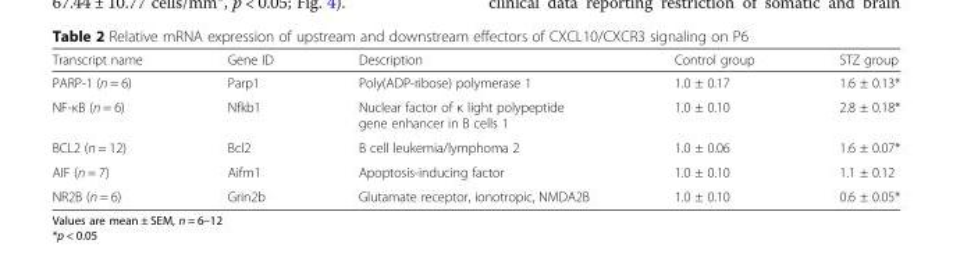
<table><thead><tr><td>Transcript name</td><td>Gene ID</td><td>Description</td><td>Control group</td><td>STZ group</td></tr></thead><tbody><tr><td>PARP-1 (n = 6)</td><td>Parp1</td><td>Poly(ADP-ribose) polymerase 1</td><td>1.0 ± 0.17</td><td>1.6 ± 0.13*</td></tr><tr><td>NF-κB (n = 6)</td><td>Nfkb1</td><td>Nuclear factor of κ light polypeptide gene enhancer in B cells 1</td><td>1.0 ± 0.10</td><td>2.8 ± 0.18*</td></tr><tr><td>BCL2 (n = 12)</td><td>Bcl2</td><td>B cell leukemia/lymphoma 2</td><td>1.0 ± 0.06</td><td>1.6 ± 0.07*</td></tr><tr><td>AIF (n = 7)</td><td>Aifm1</td><td>Apoptosis-inducing factor</td><td>1.0 ± 0.10</td><td>1.1 ± 0.12</td></tr><tr><td>NR2B (n = 6)</td><td>Grin2b</td><td>Glutamate receptor, ionotropic, NMDA2B</td><td>1.0 ± 0.10</td><td>0.6 ± 0.05*</td></tr></tbody></table>